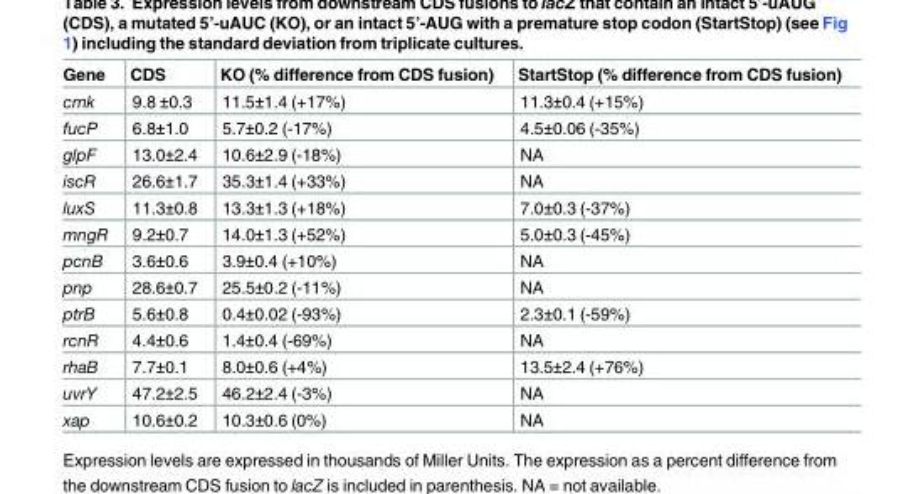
<table><thead><tr><td>Gene</td><td>CDS</td><td>KO (% difference from CDS fusion)</td><td>StartStop (% difference from CDS fusion)</td></tr></thead><tbody><tr><td>cmk</td><td>9.8 ±0.3</td><td>11.5±1.4 (+17%)</td><td>11.3±0.4 (+15%)</td></tr><tr><td>fucP</td><td>6.8±1.0</td><td>5.7±0.2 (-17%)</td><td>4.5±0.06 (-35%)</td></tr><tr><td>glpF</td><td>13.0±2.4</td><td>10.6±2.9 (-18%)</td><td>NA</td></tr><tr><td>iscR</td><td>26.6±1.7</td><td>35.3±1.4 (+33%)</td><td>NA</td></tr><tr><td>luxS</td><td>11.3±0.8</td><td>13.3±1.3 (+18%)</td><td>7.0±0.3 (-37%)</td></tr><tr><td>mngR</td><td>9.2±0.7</td><td>14.0±1.3 (+52%)</td><td>5.0±0.3 (-45%)</td></tr><tr><td>pcnB</td><td>3.6±0.6</td><td>3.9±0.4 (+10%)</td><td>NA</td></tr><tr><td>pnp</td><td>28.6±0.7</td><td>25.5±0.2 (-11%)</td><td>NA</td></tr><tr><td>ptrB</td><td>5.6±0.8</td><td>0.4±0.02 (-93%)</td><td>2.3±0.1 (-59%)</td></tr><tr><td>rcnR</td><td>4.4±0.6</td><td>1.4±0.4 (-69%)</td><td>NA</td></tr><tr><td>rhaB</td><td>7.7±0.1</td><td>8.0±0.6 (+4%)</td><td>13.5±2.4 (+76%)</td></tr><tr><td>uvrY</td><td>47.2±2.5</td><td>46.2±2.4 (-3%)</td><td>NA</td></tr><tr><td>xap</td><td>10.6±0.2</td><td>10.3±0.6 (0%)</td><td>NA</td></tr></tbody></table>